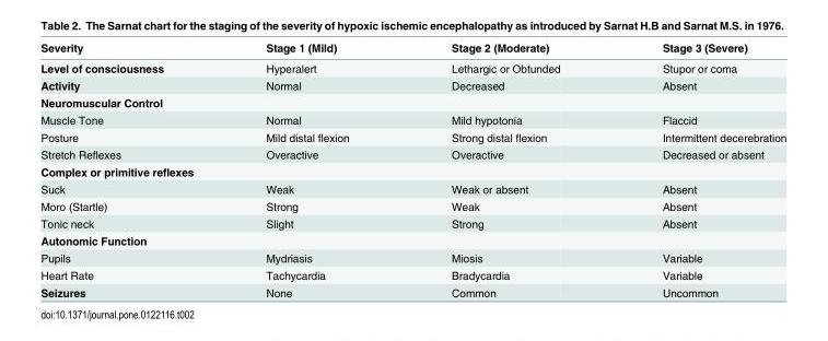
<table><thead><tr><td>Severity</td><td>Stage 1 (Mild)</td><td>Stage 2 (Moderate)</td><td>Stage 3 (Severe)</td></tr></thead><tbody><tr><td>Level of consciousness</td><td>Hyperalert</td><td>Lethargic or Obtunded</td><td>Stupor or coma</td></tr><tr><td>Activity</td><td>Normal</td><td>Decreased</td><td>Absent</td></tr><tr><td colspan="4">Neuromuscular Control</td></tr><tr><td>Muscle Tone</td><td>Normal</td><td>Mild hypotonia</td><td>Flaccid</td></tr><tr><td>Posture</td><td>Mild distal flexion</td><td>Strong distal flexion</td><td>Intermittent decerebration</td></tr><tr><td>Stretch Reflexes</td><td>Overactive</td><td>Overactive</td><td>Decreased or absent</td></tr><tr><td colspan="4">Complex or primitive reflexes</td></tr><tr><td>Suck</td><td>Weak</td><td>Weak or absent</td><td>Absent</td></tr><tr><td>Moro (Startle)</td><td>Strong</td><td>Weak</td><td>Absent</td></tr><tr><td>Tonic neck</td><td>Slight</td><td>Strong</td><td>Absent</td></tr><tr><td colspan="4">Autonomic Function</td></tr><tr><td>Pupils</td><td>Mydriasis</td><td>Miosis</td><td>Variable</td></tr><tr><td>Heart Rate</td><td>Tachycardia</td><td>Bradycardia</td><td>Variable</td></tr><tr><td>Seizures</td><td>None</td><td>Common</td><td>Uncommon</td></tr></tbody></table>